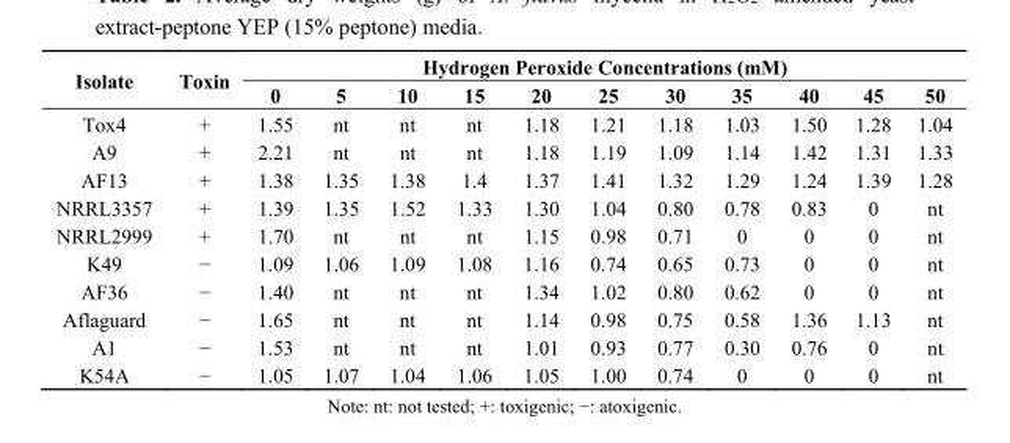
<table><thead><tr><td rowspan="2">Isolate</td><td rowspan="2">Toxin</td><td colspan="11">Hydrogen Peroxide Concentrations (mM)</td></tr><tr><td>0</td><td>5</td><td>10</td><td>15</td><td>20</td><td>25</td><td>30</td><td>35</td><td>40</td><td>45</td><td>50</td></tr></thead><tbody><tr><td>Tox4</td><td>+</td><td>1.55</td><td>nt</td><td>nt</td><td>nt</td><td>1.18</td><td>1.21</td><td>1.18</td><td>1.03</td><td>1.50</td><td>1.28</td><td>1.04</td></tr><tr><td>A9</td><td>+</td><td>2.21</td><td>nt</td><td>nt</td><td>nt</td><td>1.18</td><td>1.19</td><td>1.09</td><td>1.14</td><td>1.42</td><td>1.31</td><td>1.33</td></tr><tr><td>AF13</td><td>+</td><td>1.38</td><td>1.35</td><td>1.38</td><td>1.4</td><td>1.37</td><td>1.41</td><td>1.32</td><td>1.29</td><td>1.24</td><td>1.39</td><td>1.28</td></tr><tr><td>NRRL3357</td><td>+</td><td>1.39</td><td>1.35</td><td>1.52</td><td>1.33</td><td>1.30</td><td>1.04</td><td>0.80</td><td>0.78</td><td>0.83</td><td>0</td><td>nt</td></tr><tr><td>NRRL2999</td><td>+</td><td>1.70</td><td>nt</td><td>nt</td><td>nt</td><td>1.15</td><td>0.98</td><td>0.71</td><td>0</td><td>0</td><td>0</td><td>nt</td></tr><tr><td>K49</td><td>−</td><td>1.09</td><td>1.06</td><td>1.09</td><td>1.08</td><td>1.16</td><td>0.74</td><td>0.65</td><td>0.73</td><td>0</td><td>0</td><td>nt</td></tr><tr><td>AF36</td><td>−</td><td>1.40</td><td>nt</td><td>nt</td><td>nt</td><td>1.34</td><td>1.02</td><td>0.80</td><td>0.62</td><td>0</td><td>0</td><td>nt</td></tr><tr><td>Aflaguard</td><td>−</td><td>1.65</td><td>nt</td><td>nt</td><td>nt</td><td>1.14</td><td>0.98</td><td>0.75</td><td>0.58</td><td>1.36</td><td>1.13</td><td>nt</td></tr><tr><td>A1</td><td>−</td><td>1.53</td><td>nt</td><td>nt</td><td>nt</td><td>1.01</td><td>0.93</td><td>0.77</td><td>0.30</td><td>0.76</td><td>0</td><td>nt</td></tr><tr><td>K54A</td><td>−</td><td>1.05</td><td>1.07</td><td>1.04</td><td>1.06</td><td>1.05</td><td>1.00</td><td>0.74</td><td>0</td><td>0</td><td>0</td><td>nt</td></tr></tbody></table>